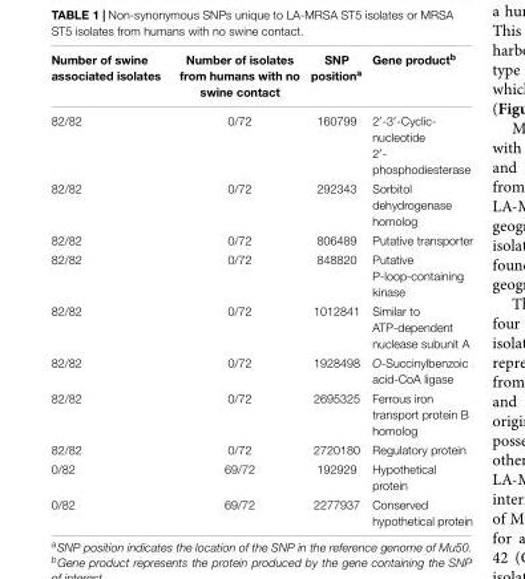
<table><thead><tr><td>Number of swine associated isolates</td><td>Number of isolates from humans with no swine contact</td><td>SNP position<sup>a</sup></td><td>Gene product<sup>b</sup></td></tr></thead><tbody><tr><td>82/82</td><td>0/72</td><td>160799</td><td>2′-3′-Cyclic- nucleotide 2′- phosphodiesterase</td></tr><tr><td>82/82</td><td>0/72</td><td>292343</td><td>Sorbitol dehydrogenase homolog</td></tr><tr><td>82/82</td><td>0/72</td><td>806489</td><td>Putative transporter</td></tr><tr><td>82/82</td><td>0/72</td><td>848820</td><td>Putative P-loop-containing kinase</td></tr><tr><td>82/82</td><td>0/72</td><td>1012841</td><td>Similar to ATP-dependent nuclease subunit A</td></tr><tr><td>82/82</td><td>0/72</td><td>1928498</td><td>O-Succinylbenzoic acid-CoA ligase</td></tr><tr><td>82/82</td><td>0/72</td><td>2695325</td><td>Ferrous iron transport protein B homolog</td></tr><tr><td>82/82</td><td>0/72</td><td>2720180</td><td>Regulatory protein</td></tr><tr><td>0/82</td><td>69/72</td><td>192929</td><td>Hypothetical protein</td></tr><tr><td>0/82</td><td>69/72</td><td>2277937</td><td>Conserved hypothetical protein</td></tr></tbody></table>